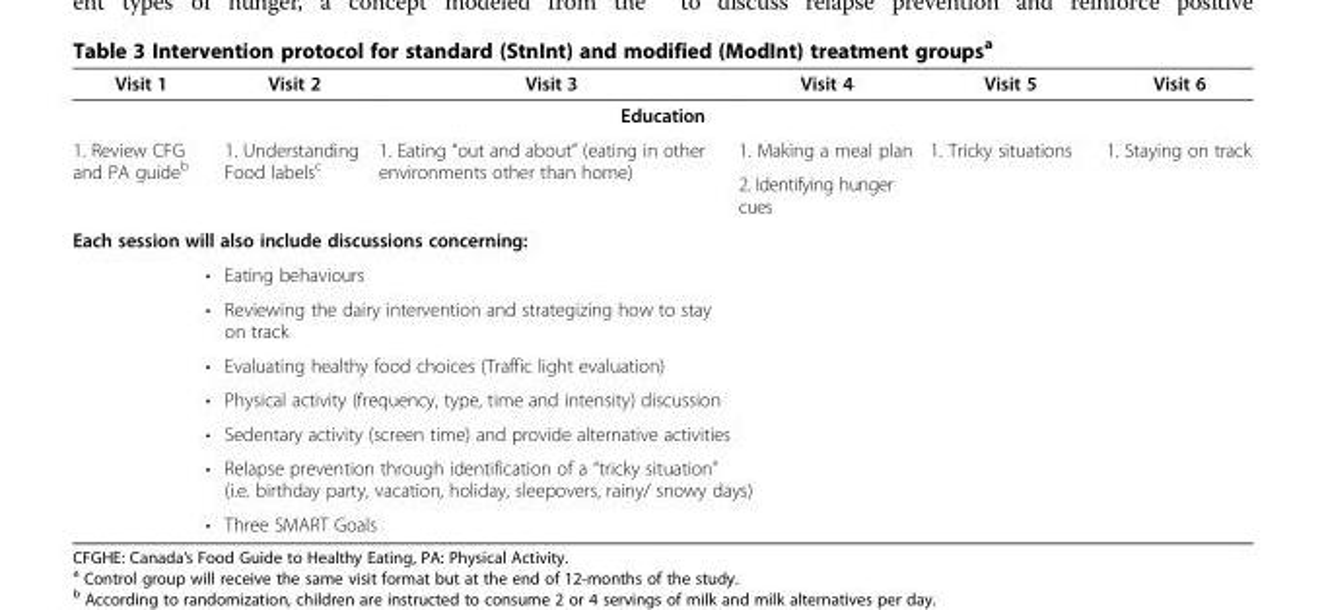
<table><thead><tr><td>Visit 1</td><td>Visit 2</td><td>Visit 3</td><td>Visit 4</td><td>Visit 5</td><td>Visit 6</td></tr></thead><tbody><tr><td colspan="6">Education</td></tr><tr><td rowspan="2">1. Review CFG and PA guide<sup>b</sup></td><td rowspan="2">1. Understanding Food labels<sup>c</sup></td><td rowspan="2">1. Eating “out and about” (eating in other environments other than home)</td><td>1. Making a meal plan</td><td rowspan="2">1. Tricky situations</td><td rowspan="2">1. Staying on track</td></tr><tr><td>2. Identifying hunger cues</td></tr><tr><td colspan="6">Each session will also include discussions concerning:</td></tr><tr><td>•</td><td colspan="5">Eating behaviours</td></tr><tr><td>•</td><td colspan="5">Reviewing the dairy intervention and strategizing how to stay on track</td></tr><tr><td>•</td><td colspan="5">Evaluating healthy food choices (Traffic light evaluation)</td></tr><tr><td>•</td><td colspan="5">Physical activity (frequency, type, time and intensity) discussion</td></tr><tr><td>•</td><td colspan="5">Sedentary activity (screen time) and provide alternative activities</td></tr><tr><td>•</td><td colspan="5">Relapse prevention through identification of a “tricky situation” (i.e. birthday party, vacation, holiday, sleepovers, rainy/ snowy days)</td></tr><tr><td>•</td><td colspan="5">Three SMART Goals</td></tr></tbody></table>